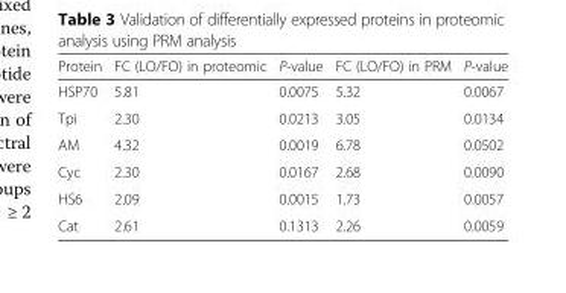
<table><thead><tr><td>Protein</td><td>FC (LO/FO) in proteomic</td><td>P-value</td><td>FC (LO/FO) in PRM</td><td>P-value</td></tr></thead><tbody><tr><td>HSP70</td><td>5.81</td><td>0.0075</td><td>5.32</td><td>0.0067</td></tr><tr><td>Tpi</td><td>2.30</td><td>0.0213</td><td>3.05</td><td>0.0134</td></tr><tr><td>AM</td><td>4.32</td><td>0.0019</td><td>6.78</td><td>0.0502</td></tr><tr><td>Cyc</td><td>2.30</td><td>0.0167</td><td>2.68</td><td>0.0090</td></tr><tr><td>HS6</td><td>2.09</td><td>0.0015</td><td>1.73</td><td>0.0057</td></tr><tr><td>Cat</td><td>2.61</td><td>0.1313</td><td>2.26</td><td>0.0059</td></tr></tbody></table>